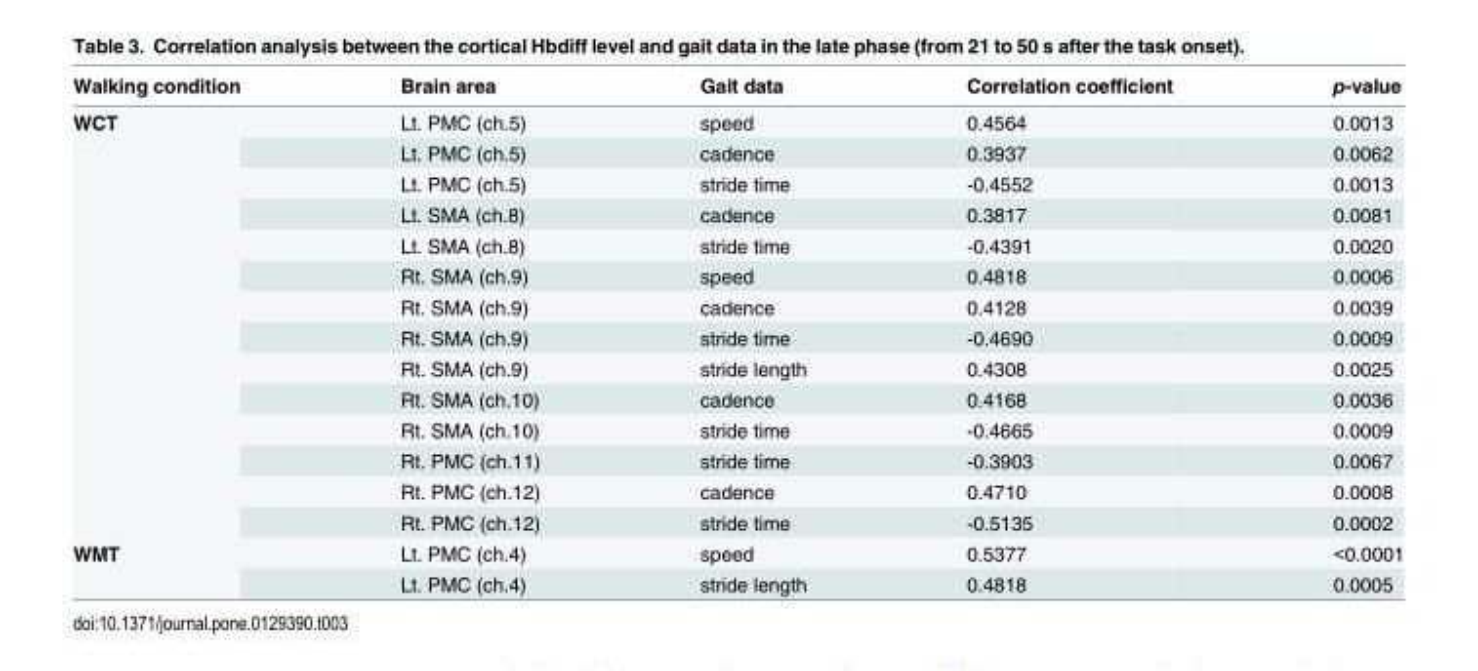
<table><thead><tr><td>Walking condition</td><td>Brain area</td><td>Gait data</td><td>Correlation coefficient</td><td>p-value</td></tr></thead><tbody><tr><td rowspan="14">WCT</td><td>Lt. PMC (ch.5)</td><td>speed</td><td>0.4564</td><td>0.0013</td></tr><tr><td>Lt. PMC (ch.5)</td><td>cadence</td><td>0.3937</td><td>0.0062</td></tr><tr><td>Lt. PMC (ch.5)</td><td>stride time</td><td>-0.4552</td><td>0.0013</td></tr><tr><td>Lt. SMA (ch.8)</td><td>cadence</td><td>0.3817</td><td>0.0081</td></tr><tr><td>Lt. SMA (ch.8)</td><td>stride time</td><td>-0.4391</td><td>0.0020</td></tr><tr><td>Rt. SMA (ch.9)</td><td>speed</td><td>0.4818</td><td>0.0006</td></tr><tr><td>Rt. SMA (ch.9)</td><td>cadence</td><td>0.4128</td><td>0.0039</td></tr><tr><td>Rt. SMA (ch.9)</td><td>stride time</td><td>-0.4690</td><td>0.0009</td></tr><tr><td>Rt. SMA (ch.9)</td><td>stride length</td><td>0.4308</td><td>0.0025</td></tr><tr><td>Rt. SMA (ch.10)</td><td>cadence</td><td>0.4168</td><td>0.0036</td></tr><tr><td>Rt. SMA (ch.10)</td><td>stride time</td><td>-0.4665</td><td>0.0009</td></tr><tr><td>Rt. PMC (ch.11)</td><td>stride time</td><td>-0.3903</td><td>0.0067</td></tr><tr><td>Rt. PMC (ch.12)</td><td>cadence</td><td>0.4710</td><td>0.0008</td></tr><tr><td>Rt. PMC (ch.12)</td><td>stride time</td><td>-0.5135</td><td>0.0002</td></tr><tr><td rowspan="2">WMT</td><td>Lt. PMC (ch.4)</td><td>speed</td><td>0.5377</td><td>&lt;0.0001</td></tr><tr><td>Lt. PMC (ch.4)</td><td>stride length</td><td>0.4818</td><td>0.0005</td></tr></tbody></table>